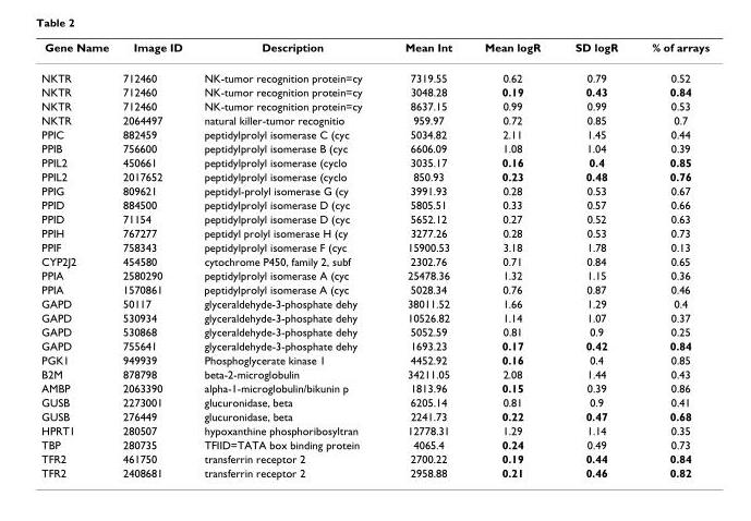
<table><thead><tr><td>Gene Name</td><td>Image ID</td><td>Description</td><td>Mean Int</td><td>Mean logR</td><td>SD logR</td><td>% of arrays</td></tr></thead><tbody><tr><td>NKTR</td><td>712460</td><td>NK-tumor recognition protein=cy</td><td>7319.55</td><td>0.62</td><td>0.79</td><td>0.52</td></tr><tr><td>NKTR</td><td>712460</td><td>NK-tumor recognition protein=cy</td><td>3048.28</td><td>0.19</td><td>0.43</td><td>0.84</td></tr><tr><td>NKTR</td><td>712460</td><td>NK-tumor recognition protein=cy</td><td>8637.15</td><td>0.99</td><td>0.99</td><td>0.53</td></tr><tr><td>NKTR</td><td>2064497</td><td>natural killer-tumor recognitio</td><td>959.97</td><td>0.72</td><td>0.85</td><td>0.7</td></tr><tr><td>PPIC</td><td>882459</td><td>peptidylprolyl isomerase C (cyc</td><td>5034.82</td><td>2.11</td><td>1.45</td><td>0.44</td></tr><tr><td>PPIB</td><td>756600</td><td>peptidylprolyl isomerase B (cyc</td><td>6606.09</td><td>1.08</td><td>1.04</td><td>0.39</td></tr><tr><td>PPIL2</td><td>450661</td><td>peptidylprolyl isomerase (cyclo</td><td>3035.17</td><td>0.16</td><td>0.4</td><td>0.85</td></tr><tr><td>PPIL2</td><td>2017652</td><td>peptidylprolyl isomerase (cyclo</td><td>850.93</td><td>0.23</td><td>0.48</td><td>0.76</td></tr><tr><td>PPIG</td><td>809621</td><td>peptidyl-prolyl isomerase G (cy</td><td>3991.93</td><td>0.28</td><td>0.53</td><td>0.67</td></tr><tr><td>PPID</td><td>884500</td><td>peptidylprolyl isomerase D (cyc</td><td>5805.51</td><td>0.33</td><td>0.57</td><td>0.66</td></tr><tr><td>PPID</td><td>71154</td><td>peptidylprolyl isomerase D (cyc</td><td>5652.12</td><td>0.27</td><td>0.52</td><td>0.63</td></tr><tr><td>PPIH</td><td>767277</td><td>peptidyl prolyl isomerase H (cy</td><td>3277.26</td><td>0.28</td><td>0.53</td><td>0.73</td></tr><tr><td>PPIF</td><td>758343</td><td>peptidylprolyl isomerase F (cyc</td><td>15900.53</td><td>3.18</td><td>1.78</td><td>0.13</td></tr><tr><td>CYP2J2</td><td>454580</td><td>cytochrome P450, family 2, subf</td><td>2302.76</td><td>0.71</td><td>0.84</td><td>0.65</td></tr><tr><td>PPIA</td><td>2580290</td><td>peptidylprolyl isomerase A (cyc</td><td>25478.36</td><td>1.32</td><td>1.15</td><td>0.36</td></tr><tr><td>PPIA</td><td>1570861</td><td>peptidylprolyl isomerase A (cyc</td><td>5028.34</td><td>0.76</td><td>0.87</td><td>0.46</td></tr><tr><td>GAPD</td><td>50117</td><td>glyceraldehyde-3-phosphate dehy</td><td>38011.52</td><td>1.66</td><td>1.29</td><td>0.4</td></tr><tr><td>GAPD</td><td>530934</td><td>glyceraldehyde-3-phosphate dehy</td><td>10526.82</td><td>1.14</td><td>1.07</td><td>0.37</td></tr><tr><td>GAPD</td><td>530868</td><td>glyceraldehyde-3-phosphate dehy</td><td>5052.59</td><td>0.81</td><td>0.9</td><td>0.25</td></tr><tr><td>GAPD</td><td>755641</td><td>glyceraldehyde-3-phosphate dehy</td><td>1693.23</td><td>0.17</td><td>0.42</td><td>0.84</td></tr><tr><td>PGK1</td><td>949939</td><td>Phosphoglycerate kinase 1</td><td>4452.92</td><td>0.16</td><td>0.4</td><td>0.85</td></tr><tr><td>B2M</td><td>878798</td><td>beta-2-microglobulin</td><td>34211.05</td><td>2.08</td><td>1.44</td><td>0.43</td></tr><tr><td>AMBP</td><td>2063390</td><td>alpha-1-microglobulin/bikunin p</td><td>1813.96</td><td>0.15</td><td>0.39</td><td>0.86</td></tr><tr><td>GUSB</td><td>2273001</td><td>glucuronidase, beta</td><td>6205.14</td><td>0.81</td><td>0.9</td><td>0.41</td></tr><tr><td>GUSB</td><td>276449</td><td>glucuronidase, beta</td><td>2241.73</td><td>0.22</td><td>0.47</td><td>0.68</td></tr><tr><td>HPRT1</td><td>280507</td><td>hypoxanthine phosphoribosyltran</td><td>12778.31</td><td>1.29</td><td>1.14</td><td>0.35</td></tr><tr><td>TBP</td><td>280735</td><td>TFIID=TATA box binding protein</td><td>4065.4</td><td>0.24</td><td>0.49</td><td>0.73</td></tr><tr><td>TFR2</td><td>461750</td><td>transferrin receptor 2</td><td>2700.22</td><td>0.19</td><td>0.44</td><td>0.84</td></tr><tr><td>TFR2</td><td>2408681</td><td>transferrin receptor 2</td><td>2958.88</td><td>0.21</td><td>0.46</td><td>0.82</td></tr></tbody></table>